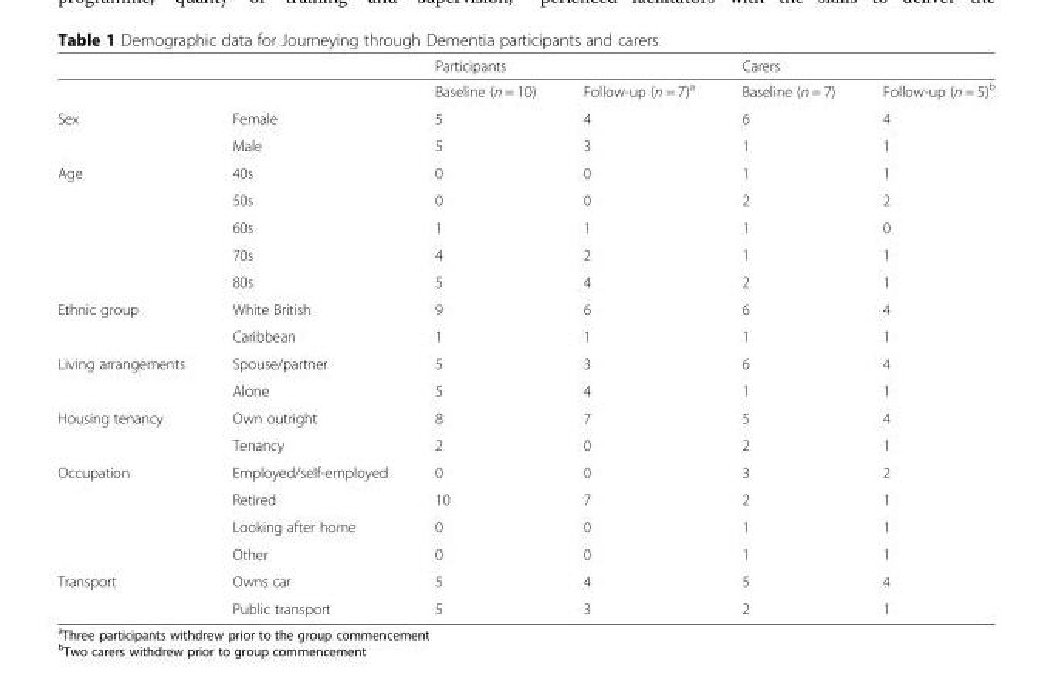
<table><thead><tr><td></td><td></td><td colspan="2">Participants</td><td colspan="2">Carers</td></tr><tr><td colspan="2"></td><td>Baseline (n = 10)</td><td>Follow-up (n = 7)<sup>a</sup></td><td>Baseline (n = 7)</td><td>Follow-up (n = 5)<sup>b</sup></td></tr></thead><tbody><tr><td rowspan="2">Sex</td><td>Female</td><td>5</td><td>4</td><td>6</td><td>4</td></tr><tr><td>Male</td><td>5</td><td>3</td><td>1</td><td>1</td></tr><tr><td rowspan="5">Age</td><td>40s</td><td>0</td><td>0</td><td>1</td><td>1</td></tr><tr><td>50s</td><td>0</td><td>0</td><td>2</td><td>2</td></tr><tr><td>60s</td><td>1</td><td>1</td><td>1</td><td>0</td></tr><tr><td>70s</td><td>4</td><td>2</td><td>1</td><td>1</td></tr><tr><td>80s</td><td>5</td><td>4</td><td>2</td><td>1</td></tr><tr><td rowspan="2">Ethnic group</td><td>White British</td><td>9</td><td>6</td><td>6</td><td>4</td></tr><tr><td>Caribbean</td><td>1</td><td>1</td><td>1</td><td>1</td></tr><tr><td rowspan="2">Living arrangements</td><td>Spouse/partner</td><td>5</td><td>3</td><td>6</td><td>4</td></tr><tr><td>Alone</td><td>5</td><td>4</td><td>1</td><td>1</td></tr><tr><td rowspan="2">Housing tenancy</td><td>Own outright</td><td>8</td><td>7</td><td>5</td><td>4</td></tr><tr><td>Tenancy</td><td>2</td><td>0</td><td>2</td><td>1</td></tr><tr><td rowspan="4">Occupation</td><td>Employed/self-employed</td><td>0</td><td>0</td><td>3</td><td>2</td></tr><tr><td>Retired</td><td>10</td><td>7</td><td>2</td><td>1</td></tr><tr><td>Looking after home</td><td>0</td><td>0</td><td>1</td><td>1</td></tr><tr><td>Other</td><td>0</td><td>0</td><td>1</td><td>1</td></tr><tr><td rowspan="2">Transport</td><td>Owns car</td><td>5</td><td>4</td><td>5</td><td>4</td></tr><tr><td>Public transport</td><td>5</td><td>3</td><td>2</td><td>1</td></tr></tbody></table>